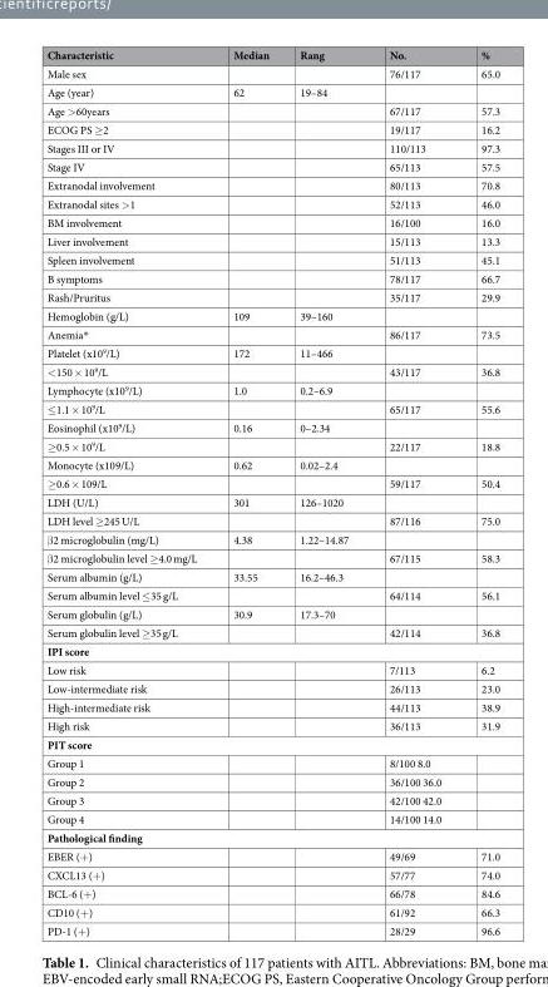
<table><thead><tr><td>Characteristic</td><td>Median</td><td>Rang</td><td>No.</td><td>%</td></tr></thead><tbody><tr><td>Male sex</td><td></td><td></td><td>76/117</td><td>65.0</td></tr><tr><td>Age (year)</td><td>62</td><td>19–84</td><td></td><td></td></tr><tr><td>Age &gt;60years</td><td></td><td></td><td>67/117</td><td>57.3</td></tr><tr><td>ECOG PS ≥2</td><td></td><td></td><td>19/117</td><td>16.2</td></tr><tr><td>Stages III or IV</td><td></td><td></td><td>110/113</td><td>97.3</td></tr><tr><td>Stage IV</td><td></td><td></td><td>65/113</td><td>57.5</td></tr><tr><td>Extranodal involvement</td><td></td><td></td><td>80/113</td><td>70.8</td></tr><tr><td>Extranodal sites &gt;1</td><td></td><td></td><td>52/113</td><td>46.0</td></tr><tr><td>BM involvement</td><td></td><td></td><td>16/100</td><td>16.0</td></tr><tr><td>Liver involvement</td><td></td><td></td><td>15/113</td><td>13.3</td></tr><tr><td>Spleen involvement</td><td></td><td></td><td>51/113</td><td>45.1</td></tr><tr><td>B symptoms</td><td></td><td></td><td>78/117</td><td>66.7</td></tr><tr><td>Rash/Pruritus</td><td></td><td></td><td>35/117</td><td>29.9</td></tr><tr><td>Hemoglobin (g/L)</td><td>109</td><td>39–160</td><td></td><td></td></tr><tr><td>Anemia*</td><td></td><td></td><td>86/117</td><td>73.5</td></tr><tr><td>Platelet (x10<sup>9</sup>/L)</td><td>172</td><td>11–466</td><td></td><td></td></tr><tr><td>&lt;150 × 10<sup>9</sup>/L</td><td></td><td></td><td>43/117</td><td>36.8</td></tr><tr><td>Lymphocyte (x10<sup>9</sup>/L)</td><td>1.0</td><td>0.2–6.9</td><td></td><td></td></tr><tr><td>≤1.1 × 10<sup>9</sup>/L</td><td></td><td></td><td>65/117</td><td>55.6</td></tr><tr><td>Eosinophil (x10<sup>9</sup>/L)</td><td>0.16</td><td>0–2.34</td><td></td><td></td></tr><tr><td>≥0.5 × 10<sup>9</sup>/L</td><td></td><td></td><td>22/117</td><td>18.8</td></tr><tr><td>Monocyte (x109/L)</td><td>0.62</td><td>0.02–2.4</td><td></td><td></td></tr><tr><td>≥0.6 × 109/L</td><td></td><td></td><td>59/117</td><td>50.4</td></tr><tr><td>LDH (U/L)</td><td>301</td><td>126–1020</td><td></td><td></td></tr><tr><td>LDH level ≥245 U/L</td><td></td><td></td><td>87/116</td><td>75.0</td></tr><tr><td>β2 microglobulin (mg/L)</td><td>4.38</td><td>1.22–14.87</td><td></td><td></td></tr><tr><td>β2 microglobulin level ≥4.0 mg/L</td><td></td><td></td><td>67/115</td><td>58.3</td></tr><tr><td>Serum albumin (g/L)</td><td>33.55</td><td>16.2–46.3</td><td></td><td></td></tr><tr><td>Serum albumin level ≤35 g/L</td><td></td><td></td><td>64/114</td><td>56.1</td></tr><tr><td>Serum globulin (g/L)</td><td>30.9</td><td>17.3–70</td><td></td><td></td></tr><tr><td>Serum globulin level ≥35 g/L</td><td></td><td></td><td>42/114</td><td>36.8</td></tr><tr><td colspan="5">IPI score</td></tr><tr><td>Low risk</td><td></td><td></td><td>7/113</td><td>6.2</td></tr><tr><td>Low-intermediate risk</td><td></td><td></td><td>26/113</td><td>23.0</td></tr><tr><td>High-intermediate risk</td><td></td><td></td><td>44/113</td><td>38.9</td></tr><tr><td>High risk</td><td></td><td></td><td>36/113</td><td>31.9</td></tr><tr><td colspan="5">PIT score</td></tr><tr><td>Group 1</td><td></td><td></td><td>8/100 8.0</td><td></td></tr><tr><td>Group 2</td><td></td><td></td><td>36/100 36.0</td><td></td></tr><tr><td>Group 3</td><td></td><td></td><td>42/100 42.0</td><td></td></tr><tr><td>Group 4</td><td></td><td></td><td>14/100 14.0</td><td></td></tr><tr><td colspan="5">Pathological finding</td></tr><tr><td>EBER (+)</td><td></td><td></td><td>49/69</td><td>71.0</td></tr><tr><td>CXCL13 (+)</td><td></td><td></td><td>57/77</td><td>74.0</td></tr><tr><td>BCL-6 (+)</td><td></td><td></td><td>66/78</td><td>84.6</td></tr><tr><td>CD10 (+)</td><td></td><td></td><td>61/92</td><td>66.3</td></tr><tr><td>PD-1 (+)</td><td></td><td></td><td>28/29</td><td>96.6</td></tr></tbody></table>